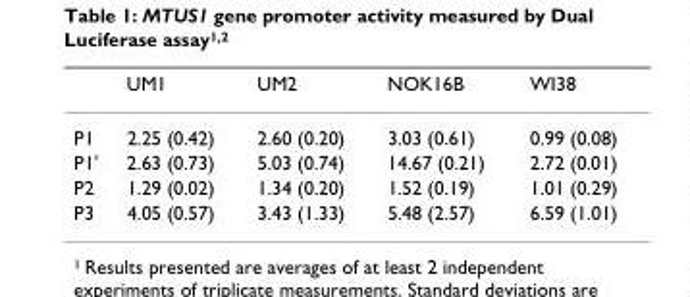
<table><thead><tr><td></td><td>UM1</td><td>UM2</td><td>NOK16B</td><td>WI38</td></tr></thead><tbody><tr><td>P1</td><td>2.25 (0.42)</td><td>2.60 (0.20)</td><td>3.03 (0.61)</td><td>0.99 (0.08)</td></tr><tr><td>P1&#x27;</td><td>2.63 (0.73)</td><td>5.03 (0.74)</td><td>14.67 (0.21)</td><td>2.72 (0.01)</td></tr><tr><td>P2</td><td>1.29 (0.02)</td><td>1.34 (0.20)</td><td>1.52 (0.19)</td><td>1.01 (0.29)</td></tr><tr><td>P3</td><td>4.05 (0.57)</td><td>3.43 (1.33)</td><td>5.48 (2.57)</td><td>6.59 (1.01)</td></tr></tbody></table>